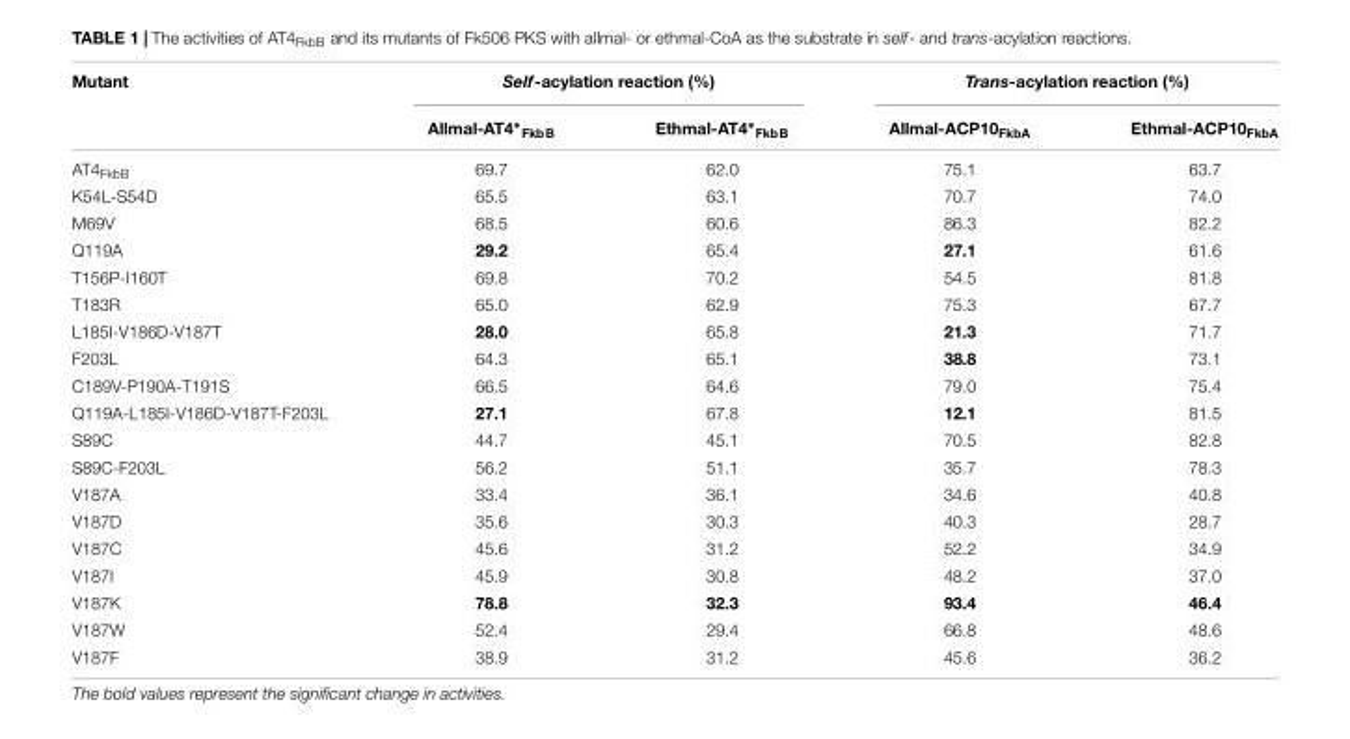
<table><thead><tr><td rowspan="2">Mutant</td><td colspan="2">Self-acylation reaction (%)</td><td colspan="2">Trans-acylation reaction (%)</td></tr><tr><td>Allmal-AT4∗<sub>FkbB</sub></td><td>Ethmal-AT4∗<sub>FkbB</sub></td><td>Allmal-ACP10<sub>FkbA</sub></td><td>Ethmal-ACP10<sub>FkbA</sub></td></tr></thead><tbody><tr><td>AT4<sub>FkbB</sub></td><td>69.7</td><td>62.0</td><td>75.1</td><td>63.7</td></tr><tr><td>K54L-S54D</td><td>65.5</td><td>63.1</td><td>70.7</td><td>74.0</td></tr><tr><td>M69V</td><td>68.5</td><td>60.6</td><td>86.3</td><td>82.2</td></tr><tr><td>Q119A</td><td>29.2</td><td>65.4</td><td>27.1</td><td>61.6</td></tr><tr><td>T156P-I160T</td><td>69.8</td><td>70.2</td><td>54.5</td><td>81.8</td></tr><tr><td>T183R</td><td>65.0</td><td>62.9</td><td>75.3</td><td>67.7</td></tr><tr><td>L185I-V186D-V187T</td><td>28.0</td><td>65.8</td><td>21.3</td><td>71.7</td></tr><tr><td>F203L</td><td>64.3</td><td>65.1</td><td>38.8</td><td>73.1</td></tr><tr><td>C189V-P190A-T191S</td><td>66.5</td><td>64.6</td><td>79.0</td><td>75.4</td></tr><tr><td>Q119A-L185I-V186D-V187T-F203L</td><td>27.1</td><td>67.8</td><td>12.1</td><td>81.5</td></tr><tr><td>S89C</td><td>44.7</td><td>45.1</td><td>70.5</td><td>82.8</td></tr><tr><td>S89C-F203L</td><td>56.2</td><td>51.1</td><td>35.7</td><td>78.3</td></tr><tr><td>V187A</td><td>33.4</td><td>36.1</td><td>34.6</td><td>40.8</td></tr><tr><td>V187D</td><td>35.6</td><td>30.3</td><td>40.3</td><td>28.7</td></tr><tr><td>V187C</td><td>45.6</td><td>31.2</td><td>52.2</td><td>34.9</td></tr><tr><td>V187I</td><td>45.9</td><td>30.8</td><td>48.2</td><td>37.0</td></tr><tr><td>V187K</td><td>78.8</td><td>32.3</td><td>93.4</td><td>46.4</td></tr><tr><td>V187W</td><td>52.4</td><td>29.4</td><td>66.8</td><td>48.6</td></tr><tr><td>V187F</td><td>38.9</td><td>31.2</td><td>45.6</td><td>36.2</td></tr></tbody></table>